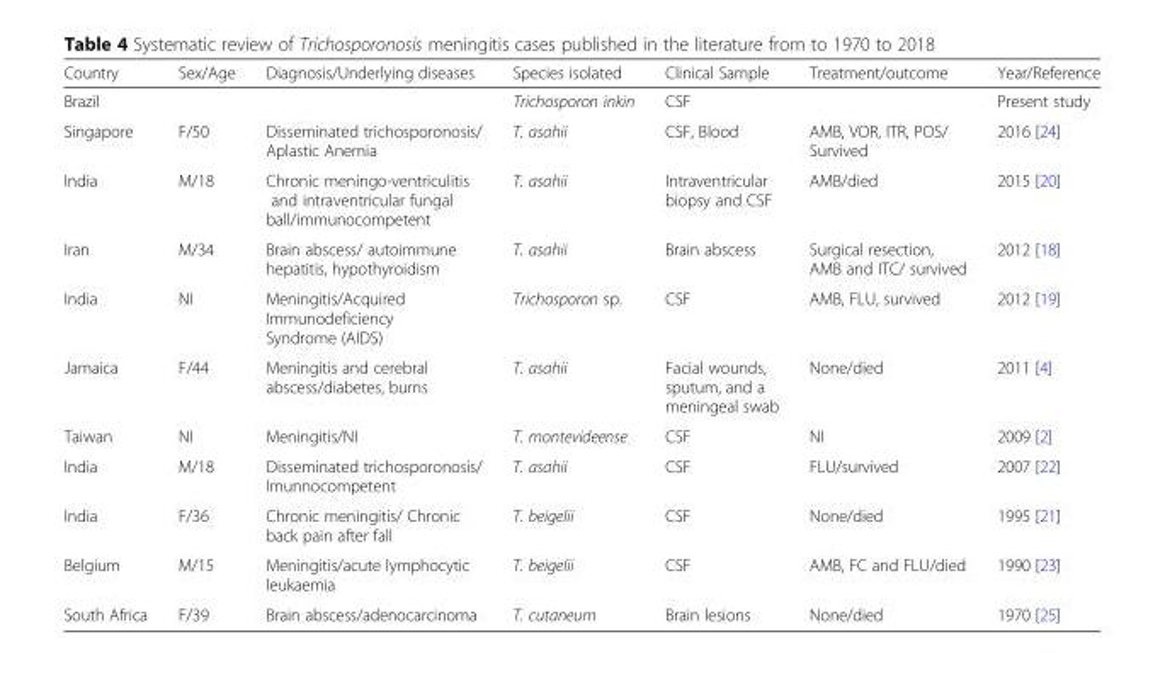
<table><thead><tr><td>Country</td><td>Sex/Age</td><td>Diagnosis/Underlying diseases</td><td>Species isolated</td><td>Clinical Sample</td><td>Treatment/outcome</td><td>Year/Reference</td></tr></thead><tbody><tr><td>Brazil</td><td></td><td></td><td>Trichosporon inkin</td><td>CSF</td><td></td><td>Present study</td></tr><tr><td>Singapore</td><td>F/50</td><td>Disseminated trichosporonosis/ Aplastic Anemia</td><td>T. asahii</td><td>CSF, Blood</td><td>AMB, VOR, ITR, POS/ Survived</td><td>2016 [24]</td></tr><tr><td>India</td><td>M/18</td><td>Chronic meningo-ventriculitis and intraventricular fungal ball/immunocompetent</td><td>T. asahii</td><td>Intraventricular biopsy and CSF</td><td>AMB/died</td><td>2015 [20]</td></tr><tr><td>Iran</td><td>M/34</td><td>Brain abscess/ autoimmune hepatitis, hypothyroidism</td><td>T. asahii</td><td>Brain abscess</td><td>Surgical resection, AMB and ITC/ survived</td><td>2012 [18]</td></tr><tr><td>India</td><td>NI</td><td>Meningitis/Acquired Immunodeficiency Syndrome (AIDS)</td><td>Trichosporon sp.</td><td>CSF</td><td>AMB, FLU, survived</td><td>2012 [19]</td></tr><tr><td>Jamaica</td><td>F/44</td><td>Meningitis and cerebral abscess/diabetes, burns</td><td>T. asahii</td><td>Facial wounds, sputum, and a meningeal swab</td><td>None/died</td><td>2011 [4]</td></tr><tr><td>Taiwan</td><td>NI</td><td>Meningitis/NI</td><td>T. montevideense</td><td>CSF</td><td>NI</td><td>2009 [2]</td></tr><tr><td>India</td><td>M/18</td><td>Disseminated trichosporonosis/ Imunnocompetent</td><td>T. asahii</td><td>CSF</td><td>FLU/survived</td><td>2007 [22]</td></tr><tr><td>India</td><td>F/36</td><td>Chronic meningitis/ Chronic back pain after fall</td><td>T. beigelii</td><td>CSF</td><td>None/died</td><td>1995 [21]</td></tr><tr><td>Belgium</td><td>M/15</td><td>Meningitis/acute lymphocytic leukaemia</td><td>T. beigelii</td><td>CSF</td><td>AMB, FC and FLU/died</td><td>1990 [23]</td></tr><tr><td>South Africa</td><td>F/39</td><td>Brain abscess/adenocarcinoma</td><td>T. cutaneum</td><td>Brain lesions</td><td>None/died</td><td>1970 [25]</td></tr></tbody></table>